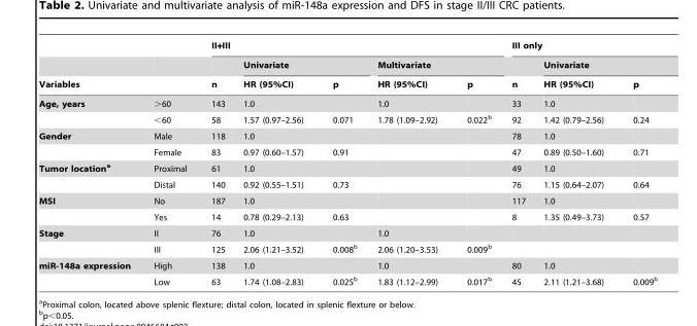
<table><thead><tr><td rowspan="3">Variables</td><td rowspan="3"></td><td colspan="5">II+III</td><td colspan="3">III only</td></tr><tr><td rowspan="2">n</td><td colspan="2">Univariate</td><td colspan="2">Multivariate</td><td rowspan="2">n</td><td colspan="2">Univariate</td></tr><tr><td>HR (95%CI)</td><td>p</td><td>HR (95%CI)</td><td>p</td><td>HR (95%CI)</td><td>p</td></tr></thead><tbody><tr><td rowspan="2">Age, years</td><td>&gt;60</td><td>143</td><td>1.0</td><td></td><td>1.0</td><td></td><td>33</td><td>1.0</td><td></td></tr><tr><td>&lt;60</td><td>58</td><td>1.57 (0.97–2.56)</td><td>0.071</td><td>1.78 (1.09–2.92)</td><td>0.022<sup>b</sup></td><td>92</td><td>1.42 (0.79–2.56)</td><td>0.24</td></tr><tr><td rowspan="2">Gender</td><td>Male</td><td>118</td><td>1.0</td><td></td><td></td><td></td><td>78</td><td>1.0</td><td></td></tr><tr><td>Female</td><td>83</td><td>0.97 (0.60–1.57)</td><td>0.91</td><td></td><td></td><td>47</td><td>0.89 (0.50–1.60)</td><td>0.71</td></tr><tr><td rowspan="2">Tumor locationa</td><td>Proximal</td><td>61</td><td>1.0</td><td></td><td></td><td></td><td>49</td><td>1.0</td><td></td></tr><tr><td>Distal</td><td>140</td><td>0.92 (0.55–1.51)</td><td>0.73</td><td></td><td></td><td>76</td><td>1.15 (0.64–2.07)</td><td>0.64</td></tr><tr><td rowspan="2">MSI</td><td>No</td><td>187</td><td>1.0</td><td></td><td></td><td></td><td>117</td><td>1.0</td><td></td></tr><tr><td>Yes</td><td>14</td><td>0.78 (0.29–2.13)</td><td>0.63</td><td></td><td></td><td>8</td><td>1.35 (0.49–3.73)</td><td>0.57</td></tr><tr><td rowspan="2">Stage</td><td>II</td><td>76</td><td>1.0</td><td></td><td>1.0</td><td></td><td></td><td></td><td></td></tr><tr><td>III</td><td>125</td><td>2.06 (1.21–3.52)</td><td>0.008<sup>b</sup></td><td>2.06 (1.20–3.53)</td><td>0.009<sup>b</sup></td><td></td><td></td><td></td></tr><tr><td rowspan="2">miR-148a expression</td><td>High</td><td>138</td><td>1.0</td><td></td><td>1.0</td><td></td><td>80</td><td>1.0</td><td></td></tr><tr><td>Low</td><td>63</td><td>1.74 (1.08–2.83)</td><td>0.025<sup>b</sup></td><td>1.83 (1.12–2.99)</td><td>0.017<sup>b</sup></td><td>45</td><td>2.11 (1.21–3.68)</td><td>0.009<sup>b</sup></td></tr></tbody></table>